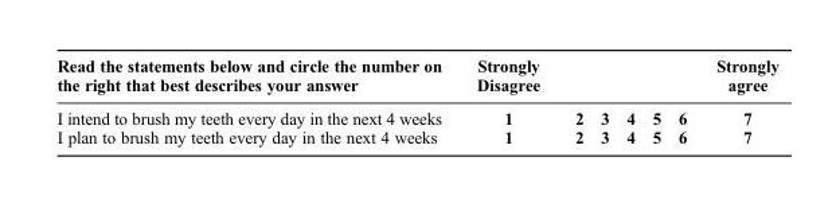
<table><thead><tr><td>Read the statements below and circle the number on the right that best describes your answer</td><td>Strongly Disagree</td><td></td><td></td><td></td><td></td><td></td><td>Strongly agree</td></tr></thead><tbody><tr><td>I intend to brush my teeth every day in the next 4 weeks</td><td>1</td><td>2</td><td>3</td><td>4</td><td>5</td><td>6</td><td>7</td></tr><tr><td>I plan to brush my teeth every day in the next 4 weeks</td><td>1</td><td>2</td><td>3</td><td>4</td><td>5</td><td>6</td><td>7</td></tr></tbody></table>